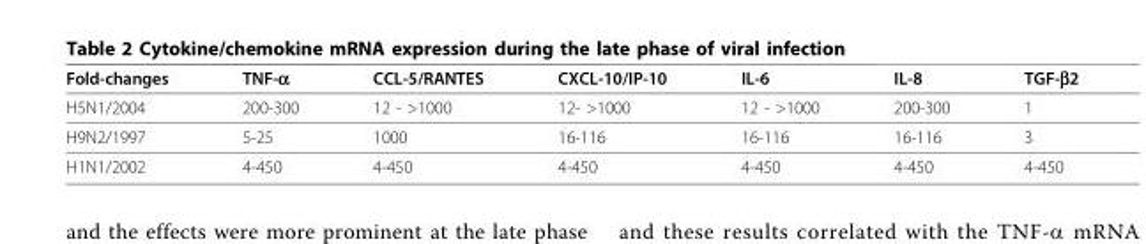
<table><thead><tr><td>Fold-changes</td><td>TNF-α</td><td>CCL-5/RANTES</td><td>CXCL-10/IP-10</td><td>IL-6</td><td>IL-8</td><td>TGF-β2</td></tr></thead><tbody><tr><td>H5N1/2004</td><td>200-300</td><td>12 - &gt;1000</td><td>12- &gt;1000</td><td>12 - &gt;1000</td><td>200-300</td><td>1</td></tr><tr><td>H9N2/1997</td><td>5-25</td><td>1000</td><td>16-116</td><td>16-116</td><td>16-116</td><td>3</td></tr><tr><td>H1N1/2002</td><td>4-450</td><td>4-450</td><td>4-450</td><td>4-450</td><td>4-450</td><td>4-450</td></tr></tbody></table>